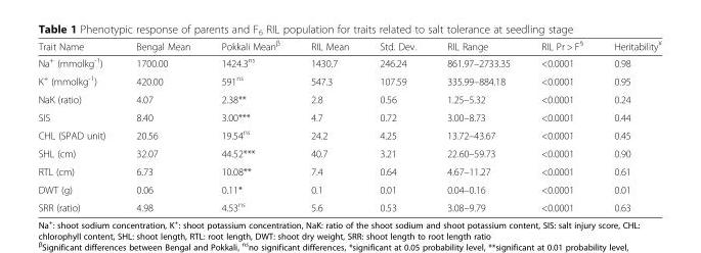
<table><thead><tr><td>Trait Name</td><td>Bengal Mean</td><td>Pokkali Mean<sup>β</sup></td><td>RIL Mean</td><td>Std. Dev.</td><td>RIL Range</td><td>RIL Pr &gt; F<sup>§</sup></td><td>Heritability<sup>¥</sup></td></tr></thead><tbody><tr><td>Na<sup>+</sup> (mmolkg<sup>-1</sup>)</td><td>1700.00</td><td>1424.3<sup>ns</sup></td><td>1430.7</td><td>246.24</td><td>861.97–2733.35</td><td>&lt;0.0001</td><td>0.98</td></tr><tr><td>K<sup>+</sup> (mmolkg<sup>-1</sup>)</td><td>420.00</td><td>591<sup>ns</sup></td><td>547.3</td><td>107.59</td><td>335.99–884.18</td><td>&lt;0.0001</td><td>0.95</td></tr><tr><td>NaK (ratio)</td><td>4.07</td><td>2.38**</td><td>2.8</td><td>0.56</td><td>1.25–5.32</td><td>&lt;0.0001</td><td>0.24</td></tr><tr><td>SIS</td><td>8.40</td><td>3.00***</td><td>4.7</td><td>0.72</td><td>3.00–8.73</td><td>&lt;0.0001</td><td>0.44</td></tr><tr><td>CHL (SPAD unit)</td><td>20.56</td><td>19.54<sup>ns</sup></td><td>24.2</td><td>4.25</td><td>13.72–43.67</td><td>&lt;0.0001</td><td>0.45</td></tr><tr><td>SHL (cm)</td><td>32.07</td><td>44.52***</td><td>40.7</td><td>3.21</td><td>22.60–59.73</td><td>&lt;0.0001</td><td>0.90</td></tr><tr><td>RTL (cm)</td><td>6.73</td><td>10.08**</td><td>7.4</td><td>0.64</td><td>4.67–11.27</td><td>&lt;0.0001</td><td>0.61</td></tr><tr><td>DWT (g)</td><td>0.06</td><td>0.11*</td><td>0.1</td><td>0.01</td><td>0.04–0.16</td><td>&lt;0.0001</td><td>0.01</td></tr><tr><td>SRR (ratio)</td><td>4.98</td><td>4.53<sup>ns</sup></td><td>5.6</td><td>0.53</td><td>3.08–9.79</td><td>&lt;0.0001</td><td>0.63</td></tr></tbody></table>